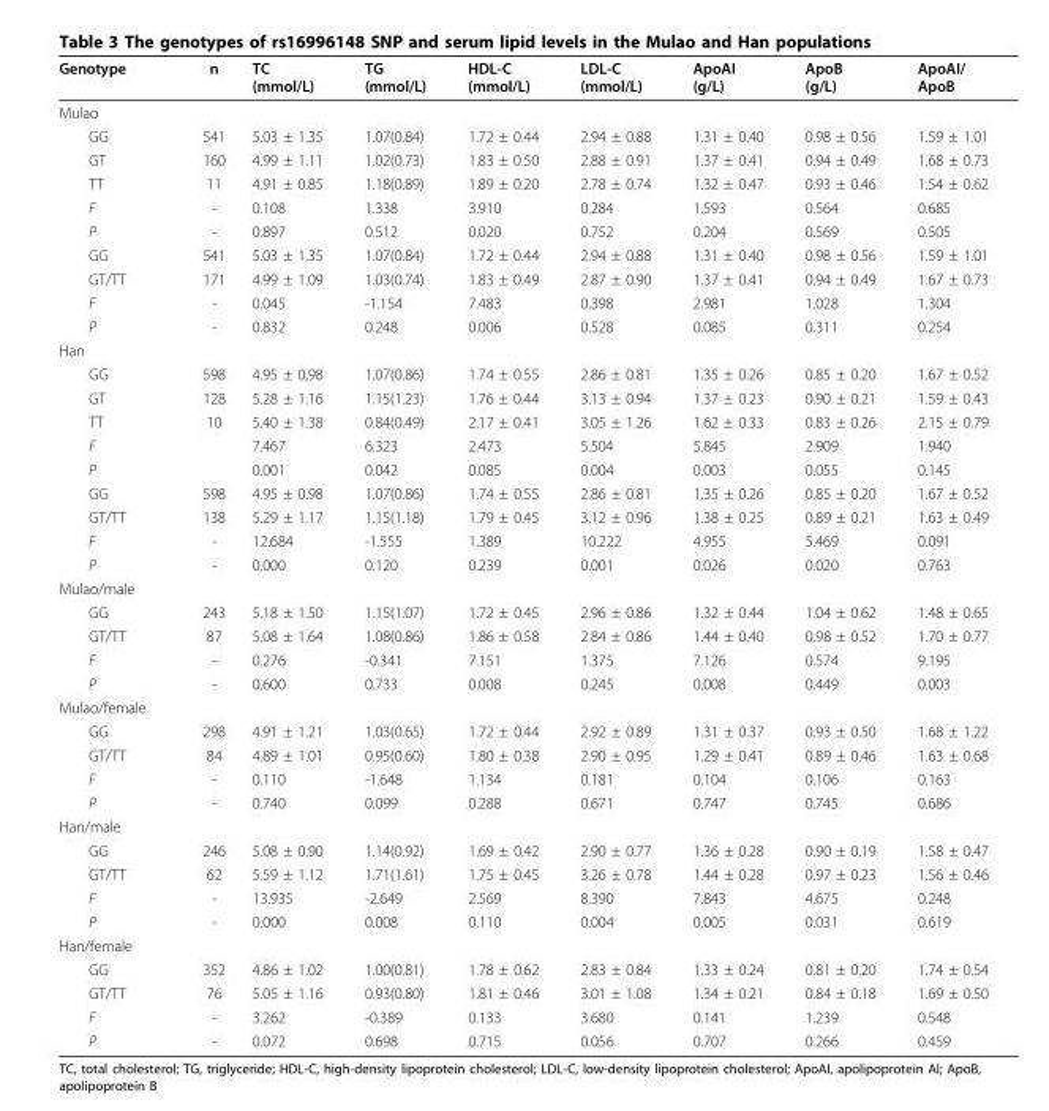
<table><thead><tr><td>Genotype</td><td>n</td><td>TC (mmol/L)</td><td>TG (mmol/L)</td><td>HDL-C (mmol/L)</td><td>LDL-C (mmol/L)</td><td>ApoAI (g/L)</td><td>ApoB (g/L)</td><td>ApoAI/ ApoB</td></tr></thead><tbody><tr><td colspan="9">Mulao</td></tr><tr><td>GG</td><td>541</td><td>5.03 ± 1.35</td><td>1.07(0.84)</td><td>1.72 ± 0.44</td><td>2.94 ± 0.88</td><td>1.31 ± 0.40</td><td>0.98 ± 0.56</td><td>1.59 ± 1.01</td></tr><tr><td>GT</td><td>160</td><td>4.99 ± 1.11</td><td>1.02(0.73)</td><td>1.83 ± 0.50</td><td>2.88 ± 0.91</td><td>1.37 ± 0.41</td><td>0.94 ± 0.49</td><td>1.68 ± 0.73</td></tr><tr><td>TT</td><td>11</td><td>4.91 ± 0.85</td><td>1.18(0.89)</td><td>1.89 ± 0.20</td><td>2.78 ± 0.74</td><td>1.32 ± 0.47</td><td>0.93 ± 0.46</td><td>1.54 ± 0.62</td></tr><tr><td>F</td><td>-</td><td>0.108</td><td>1.338</td><td>3.910</td><td>0.284</td><td>1.593</td><td>0.564</td><td>0.685</td></tr><tr><td>P</td><td>-</td><td>0.897</td><td>0.512</td><td>0.020</td><td>0.752</td><td>0.204</td><td>0.569</td><td>0.505</td></tr><tr><td>GG</td><td>541</td><td>5.03 ± 1.35</td><td>1.07(0.84)</td><td>1.72 ± 0.44</td><td>2.94 ± 0.88</td><td>1.31 ± 0.40</td><td>0.98 ± 0.56</td><td>1.59 ± 1.01</td></tr><tr><td>GT/TT</td><td>171</td><td>4.99 ± 1.09</td><td>1.03(0.74)</td><td>1.83 ± 0.49</td><td>2.87 ± 0.90</td><td>1.37 ± 0.41</td><td>0.94 ± 0.49</td><td>1.67 ± 0.73</td></tr><tr><td>F</td><td>-</td><td>0.045</td><td>-1.154</td><td>7.483</td><td>0.398</td><td>2.981</td><td>1.028</td><td>1.304</td></tr><tr><td>P</td><td>-</td><td>0.832</td><td>0.248</td><td>0.006</td><td>0.528</td><td>0.085</td><td>0.311</td><td>0.254</td></tr><tr><td colspan="9">Han</td></tr><tr><td>GG</td><td>598</td><td>4.95 ± 0,98</td><td>1.07(0.86)</td><td>1.74 ± 0.55</td><td>2.86 ± 0.81</td><td>1.35 ± 0.26</td><td>0.85 ± 0.20</td><td>1.67 ± 0.52</td></tr><tr><td>GT</td><td>128</td><td>5.28 ± 1.16</td><td>1.15(1.23)</td><td>1.76 ± 0.44</td><td>3.13 ± 0.94</td><td>1.37 ± 0.23</td><td>0.90 ± 0.21</td><td>1.59 ± 0.43</td></tr><tr><td>TT</td><td>10</td><td>5.40 ± 1.38</td><td>0.84(0.49)</td><td>2.17 ± 0.41</td><td>3.05 ± 1.26</td><td>1.62 ± 0.33</td><td>0.83 ± 0.26</td><td>2.15 ± 0.79</td></tr><tr><td>F</td><td></td><td>7.467</td><td>6.323</td><td>2.473</td><td>5.504</td><td>5.845</td><td>2.909</td><td>1.940</td></tr><tr><td>P</td><td></td><td>0.001</td><td>0.042</td><td>0.085</td><td>0.004</td><td>0.003</td><td>0.055</td><td>0.145</td></tr><tr><td>GG</td><td>598</td><td>4.95 ± 0.98</td><td>1.07(0.86)</td><td>1.74 ± 0.55</td><td>2.86 ± 0.81</td><td>1.35 ± 0.26</td><td>0.85 ± 0.20</td><td>1.67 ± 0.52</td></tr><tr><td>GT/TT</td><td>138</td><td>5.29 ± 1.17</td><td>1.15(1.18)</td><td>1.79 ± 0.45</td><td>3.12 ± 0.96</td><td>1.38 ± 0.25</td><td>0.89 ± 0.21</td><td>1.63 ± 0.49</td></tr><tr><td>F</td><td>-</td><td>12.684</td><td>-1.555</td><td>1.389</td><td>10.222</td><td>4.955</td><td>5.469</td><td>0.091</td></tr><tr><td>P</td><td>-</td><td>0.000</td><td>0.120</td><td>0.239</td><td>0.001</td><td>0.026</td><td>0.020</td><td>0.763</td></tr><tr><td colspan="9">Mulao/male</td></tr><tr><td>GG</td><td>243</td><td>5.18 ± 1.50</td><td>1.15(1.07)</td><td>1.72 ± 0.45</td><td>2.96 ± 0.86</td><td>1.32 ± 0.44</td><td>1.04 ± 0.62</td><td>1.48 ± 0.65</td></tr><tr><td>GT/TT</td><td>87</td><td>5.08 ± 1.64</td><td>1.08(0.86)</td><td>1.86 ± 0.58</td><td>2.84 ± 0.86</td><td>1.44 ± 0.40</td><td>0.98 ± 0.52</td><td>1.70 ± 0.77</td></tr><tr><td>F</td><td>-</td><td>0.276</td><td>-0.341</td><td>7.151</td><td>1.375</td><td>7.126</td><td>0.574</td><td>9.195</td></tr><tr><td>P</td><td>-</td><td>0.600</td><td>0.733</td><td>0.008</td><td>0.245</td><td>0.008</td><td>0.449</td><td>0.003</td></tr><tr><td colspan="9">Mulao/female</td></tr><tr><td>GG</td><td>298</td><td>4.91 ± 1.21</td><td>1.03(0.65)</td><td>1.72 ± 0.44</td><td>2.92 ± 0.89</td><td>1.31 ± 0.37</td><td>0.93 ± 0.50</td><td>1.68 ± 1.22</td></tr><tr><td>GT/TT</td><td>84</td><td>4.89 ± 1.01</td><td>0.95(0.60)</td><td>1.80 ± 0.38</td><td>2.90 ± 0.95</td><td>1.29 ± 0.41</td><td>0.89 ± 0.46</td><td>1.63 ± 0.68</td></tr><tr><td>F</td><td>-</td><td>0.110</td><td>-1.648</td><td>1.134</td><td>0.181</td><td>0.104</td><td>0.106</td><td>0.163</td></tr><tr><td>P</td><td>-</td><td>0.740</td><td>0.099</td><td>0.288</td><td>0.671</td><td>0.747</td><td>0.745</td><td>0.686</td></tr><tr><td colspan="9">Han/male</td></tr><tr><td>GG</td><td>246</td><td>5.08 ± 0.90</td><td>1.14(0.92)</td><td>1.69 ± 0.42</td><td>2.90 ± 0.77</td><td>1.36 ± 0.28</td><td>0.90 ± 0.19</td><td>1.58 ± 0.47</td></tr><tr><td>GT/TT</td><td>62</td><td>5.59 ± 1.12</td><td>1.71(1.61)</td><td>1.75 ± 0.45</td><td>3.26 ± 0.78</td><td>1.44 ± 0.28</td><td>0.97 ± 0.23</td><td>1.56 ± 0.46</td></tr><tr><td>F</td><td>-</td><td>13.935</td><td>-2.649</td><td>2.569</td><td>8.390</td><td>7.843</td><td>4.675</td><td>0.248</td></tr><tr><td>P</td><td>-</td><td>0.000</td><td>0.008</td><td>0.110</td><td>0.004</td><td>0.005</td><td>0.031</td><td>0.619</td></tr><tr><td colspan="9">Han/female</td></tr><tr><td>GG</td><td>352</td><td>4.86 ± 1.02</td><td>1.00(0.81)</td><td>1.78 ± 0.62</td><td>2.83 ± 0.84</td><td>1.33 ± 0.24</td><td>0.81 ± 0.20</td><td>1.74 ± 0.54</td></tr><tr><td>GT/TT</td><td>76</td><td>5.05 ± 1.16</td><td>0.93(0.80)</td><td>1.81 ± 0.46</td><td>3.01 ± 1.08</td><td>1.34 ± 0.21</td><td>0.84 ± 0.18</td><td>1.69 ± 0.50</td></tr><tr><td>F</td><td>-</td><td>3.262</td><td>-0.389</td><td>0.133</td><td>3.680</td><td>0.141</td><td>1.239</td><td>0.548</td></tr><tr><td>P</td><td>-</td><td>0.072</td><td>0.698</td><td>0.715</td><td>0.056</td><td>0.707</td><td>0.266</td><td>0.459</td></tr></tbody></table>